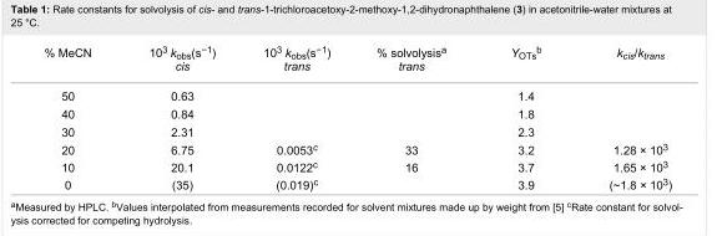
<table><tbody><tr><td>% MeCN</td><td>10<sup>3</sup> k<sub>obs</sub>(s<sup>−1</sup>) cis</td><td>10<sup>3</sup> k<sub>obs</sub>(s<sup>−1</sup>) trans</td><td>% solvolysis<sup>a</sup> trans</td><td>Y<sub>OTs</sub><sup>b</sup></td><td>k<sub>cis</sub>/k<sub>trans</sub></td></tr><tr><td>50</td><td>0.63</td><td></td><td></td><td>1.4</td><td></td></tr><tr><td>40</td><td>0.84</td><td></td><td></td><td>1.8</td><td></td></tr><tr><td>30</td><td>2.31</td><td></td><td></td><td>2.3</td><td></td></tr><tr><td>20</td><td>6.75</td><td>0.0053<sup>c</sup></td><td>33</td><td>3.2</td><td>1.28 × 10<sup>3</sup></td></tr><tr><td>10</td><td>20.1</td><td>0.0122<sup>c</sup></td><td>16</td><td>3.7</td><td>1.65 × 10<sup>3</sup></td></tr><tr><td>0</td><td>(35)</td><td>(0.019)<sup>c</sup></td><td></td><td>3.9</td><td>(~1.8 × 10<sup>3</sup>)</td></tr></tbody></table>